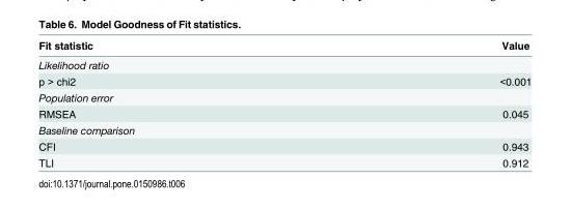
<table><thead><tr><td>Fit statistic</td><td>Value</td></tr></thead><tbody><tr><td colspan="2">Likelihood ratio</td></tr><tr><td>p &gt; chi2</td><td>&lt;0.001</td></tr><tr><td colspan="2">Population error</td></tr><tr><td>RMSEA</td><td>0.045</td></tr><tr><td colspan="2">Baseline comparison</td></tr><tr><td>CFI</td><td>0.943</td></tr><tr><td>TLI</td><td>0.912</td></tr></tbody></table>